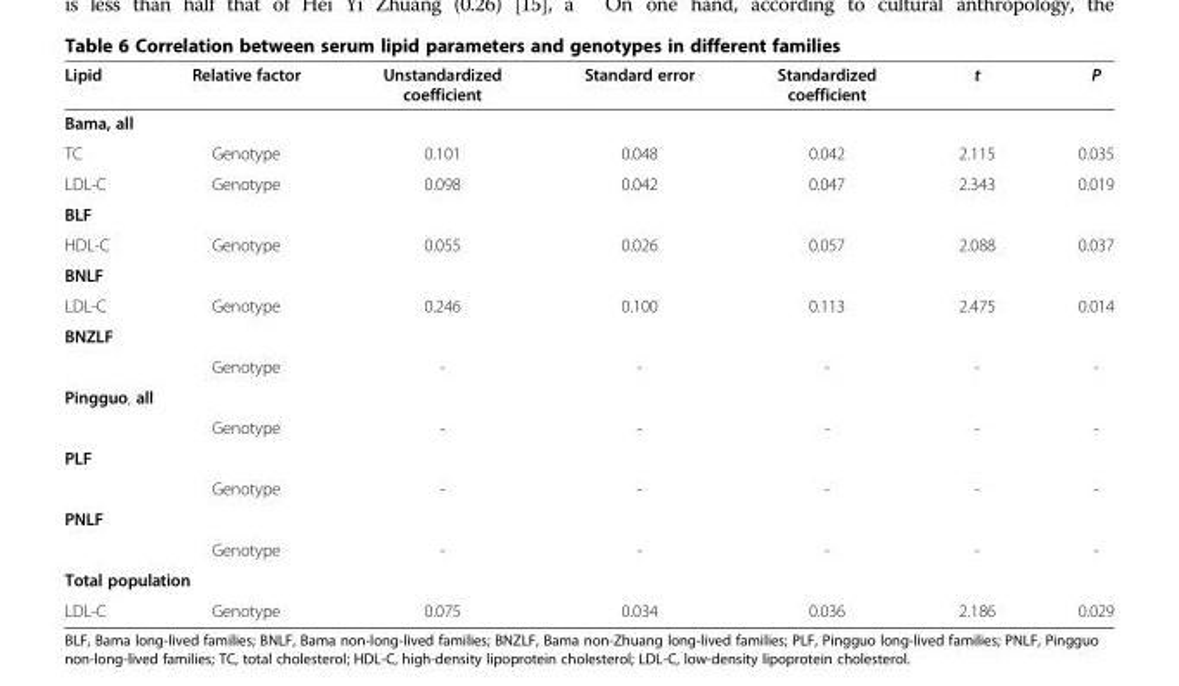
<table><thead><tr><td>Lipid</td><td>Relative factor</td><td>Unstandardized coefficient</td><td>Standard error</td><td>Standardized coefficient</td><td>t</td><td>P</td></tr></thead><tbody><tr><td colspan="7">Bama, all</td></tr><tr><td>TC</td><td>Genotype</td><td>0.101</td><td>0.048</td><td>0.042</td><td>2.115</td><td>0.035</td></tr><tr><td>LDL-C</td><td>Genotype</td><td>0.098</td><td>0.042</td><td>0.047</td><td>2.343</td><td>0.019</td></tr><tr><td colspan="7">BLF</td></tr><tr><td>HDL-C</td><td>Genotype</td><td>0.055</td><td>0.026</td><td>0.057</td><td>2.088</td><td>0.037</td></tr><tr><td colspan="7">BNLF</td></tr><tr><td>LDL-C</td><td>Genotype</td><td>0.246</td><td>0.100</td><td>0.113</td><td>2.475</td><td>0.014</td></tr><tr><td colspan="7">BNZLF</td></tr><tr><td></td><td>Genotype</td><td>-</td><td>-</td><td>-</td><td>-</td><td>-</td></tr><tr><td colspan="7">Pingguo, all</td></tr><tr><td></td><td>Genotype</td><td>-</td><td>-</td><td>-</td><td>-</td><td>-</td></tr><tr><td colspan="7">PLF</td></tr><tr><td></td><td>Genotype</td><td>-</td><td>-</td><td>-</td><td>-</td><td>-</td></tr><tr><td colspan="7">PNLF</td></tr><tr><td></td><td>Genotype</td><td>-</td><td>-</td><td>-</td><td>-</td><td>-</td></tr><tr><td colspan="7">Total population</td></tr><tr><td>LDL-C</td><td>Genotype</td><td>0.075</td><td>0.034</td><td>0.036</td><td>2.186</td><td>0.029</td></tr></tbody></table>